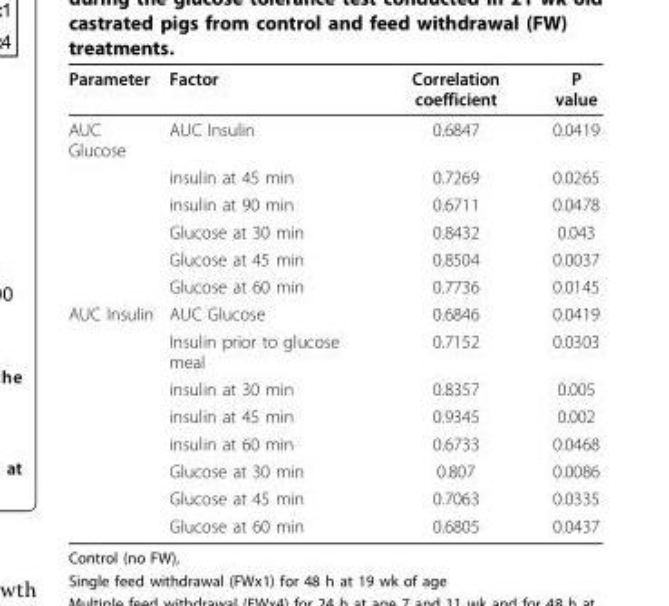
<table><thead><tr><td>Parameter</td><td>Factor</td><td>Correlation coefficient</td><td>P value</td></tr></thead><tbody><tr><td rowspan="6">AUC Glucose</td><td>AUC Insulin</td><td>0.6847</td><td>0.0419</td></tr><tr><td>insulin at 45 min</td><td>0.7269</td><td>0.0265</td></tr><tr><td>insulin at 90 min</td><td>0.6711</td><td>0.0478</td></tr><tr><td>Glucose at 30 min</td><td>0.8432</td><td>0.043</td></tr><tr><td>Glucose at 45 min</td><td>0.8504</td><td>0.0037</td></tr><tr><td>Glucose at 60 min</td><td>0.7736</td><td>0.0145</td></tr><tr><td rowspan="8">AUC Insulin</td><td>AUC Glucose</td><td>0.6846</td><td>0.0419</td></tr><tr><td>Insulin prior to glucose meal</td><td>0.7152</td><td>0.0303</td></tr><tr><td>insulin at 30 min</td><td>0.8357</td><td>0.005</td></tr><tr><td>insulin at 45 min</td><td>0.9345</td><td>0.002</td></tr><tr><td>insulin at 60 min</td><td>0.6733</td><td>0.0468</td></tr><tr><td>Glucose at 30 min</td><td>0.807</td><td>0.0086</td></tr><tr><td>Glucose at 45 min</td><td>0.7063</td><td>0.0335</td></tr><tr><td>Glucose at 60 min</td><td>0.6805</td><td>0.0437</td></tr></tbody></table>